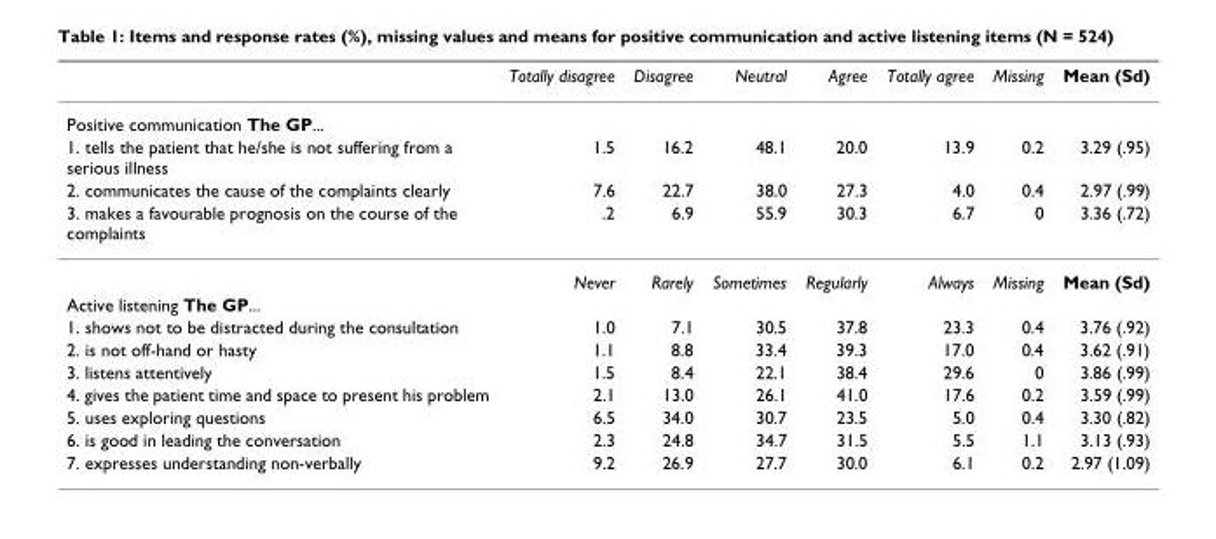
<table><thead><tr><td></td><td>Totally disagree</td><td>Disagree</td><td>Neutral</td><td>Agree</td><td>Totally agree</td><td>Missing</td><td>Mean (Sd)</td></tr></thead><tbody><tr><td colspan="8">Positive communication The GP...</td></tr><tr><td>1. tells the patient that he/she is not suffering from a serious illness</td><td>1.5</td><td>16.2</td><td>48.1</td><td>20.0</td><td>13.9</td><td>0.2</td><td>3.29 (.95)</td></tr><tr><td>2. communicates the cause of the complaints clearly</td><td>7.6</td><td>22.7</td><td>38.0</td><td>27.3</td><td>4.0</td><td>0.4</td><td>2.97 (.99)</td></tr><tr><td rowspan="2">3. makes a favourable prognosis on the course of the complaints</td><td>.2</td><td>6.9</td><td>55.9</td><td>30.3</td><td>6.7</td><td>0</td><td>3.36 (.72)</td></tr><tr><td>Never</td><td>Rarely</td><td>Sometimes</td><td>Regularly</td><td>Always</td><td>Missing</td><td>Mean (Sd)</td></tr><tr><td colspan="8">Active listening The GP...</td></tr><tr><td>1. shows not to be distracted during the consultation</td><td>1.0</td><td>7.1</td><td>30.5</td><td>37.8</td><td>23.3</td><td>0.4</td><td>3.76 (.92)</td></tr><tr><td>2. is not off-hand or hasty</td><td>1.1</td><td>8.8</td><td>33.4</td><td>39.3</td><td>17.0</td><td>0.4</td><td>3.62 (.91)</td></tr><tr><td>3. listens attentively</td><td>1.5</td><td>8.4</td><td>22.1</td><td>38.4</td><td>29.6</td><td>0</td><td>3.86 (.99)</td></tr><tr><td>4. gives the patient time and space to present his problem</td><td>2.1</td><td>13.0</td><td>26.1</td><td>41.0</td><td>17.6</td><td>0.2</td><td>3.59 (.99)</td></tr><tr><td>5. uses exploring questions</td><td>6.5</td><td>34.0</td><td>30.7</td><td>23.5</td><td>5.0</td><td>0.4</td><td>3.30 (.82)</td></tr><tr><td>6. is good in leading the conversation</td><td>2.3</td><td>24.8</td><td>34.7</td><td>31.5</td><td>5.5</td><td>1.1</td><td>3.13 (.93)</td></tr><tr><td>7. expresses understanding non-verbally</td><td>9.2</td><td>26.9</td><td>27.7</td><td>30.0</td><td>6.1</td><td>0.2</td><td>2.97 (1.09)</td></tr></tbody></table>